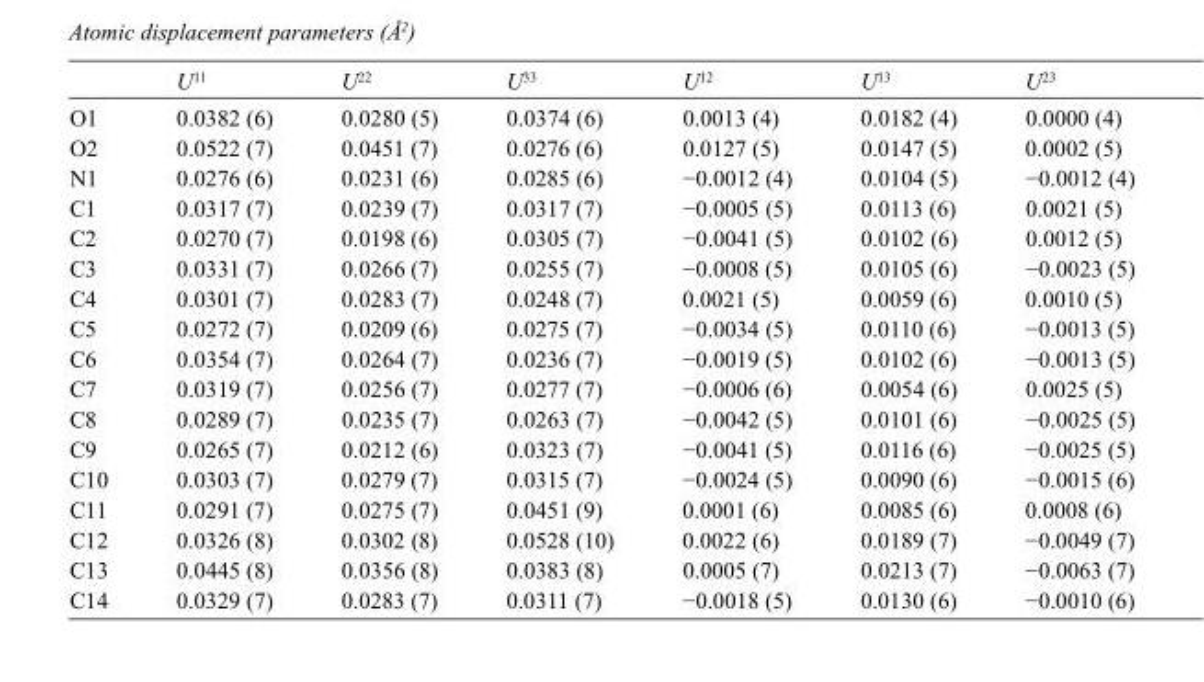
<table><thead><tr><td></td><td>U<sup>11</sup></td><td>U<sup>22</sup></td><td>U<sup>33</sup></td><td>U<sup>12</sup></td><td>U<sup>13</sup></td><td>U<sup>23</sup></td></tr></thead><tbody><tr><td>O1</td><td>0.0382 (6)</td><td>0.0280 (5)</td><td>0.0374 (6)</td><td>0.0013 (4)</td><td>0.0182 (4)</td><td>0.0000 (4)</td></tr><tr><td>O2</td><td>0.0522 (7)</td><td>0.0451 (7)</td><td>0.0276 (6)</td><td>0.0127 (5)</td><td>0.0147 (5)</td><td>0.0002 (5)</td></tr><tr><td>N1</td><td>0.0276 (6)</td><td>0.0231 (6)</td><td>0.0285 (6)</td><td>−0.0012 (4)</td><td>0.0104 (5)</td><td>−0.0012 (4)</td></tr><tr><td>C1</td><td>0.0317 (7)</td><td>0.0239 (7)</td><td>0.0317 (7)</td><td>−0.0005 (5)</td><td>0.0113 (6)</td><td>0.0021 (5)</td></tr><tr><td>C2</td><td>0.0270 (7)</td><td>0.0198 (6)</td><td>0.0305 (7)</td><td>−0.0041 (5)</td><td>0.0102 (6)</td><td>0.0012 (5)</td></tr><tr><td>C3</td><td>0.0331 (7)</td><td>0.0266 (7)</td><td>0.0255 (7)</td><td>−0.0008 (5)</td><td>0.0105 (6)</td><td>−0.0023 (5)</td></tr><tr><td>C4</td><td>0.0301 (7)</td><td>0.0283 (7)</td><td>0.0248 (7)</td><td>0.0021 (5)</td><td>0.0059 (6)</td><td>0.0010 (5)</td></tr><tr><td>C5</td><td>0.0272 (7)</td><td>0.0209 (6)</td><td>0.0275 (7)</td><td>−0.0034 (5)</td><td>0.0110 (6)</td><td>−0.0013 (5)</td></tr><tr><td>C6</td><td>0.0354 (7)</td><td>0.0264 (7)</td><td>0.0236 (7)</td><td>−0.0019 (5)</td><td>0.0102 (6)</td><td>−0.0013 (5)</td></tr><tr><td>C7</td><td>0.0319 (7)</td><td>0.0256 (7)</td><td>0.0277 (7)</td><td>−0.0006 (6)</td><td>0.0054 (6)</td><td>0.0025 (5)</td></tr><tr><td>C8</td><td>0.0289 (7)</td><td>0.0235 (7)</td><td>0.0263 (7)</td><td>−0.0042 (5)</td><td>0.0101 (6)</td><td>−0.0025 (5)</td></tr><tr><td>C9</td><td>0.0265 (7)</td><td>0.0212 (6)</td><td>0.0323 (7)</td><td>−0.0041 (5)</td><td>0.0116 (6)</td><td>−0.0025 (5)</td></tr><tr><td>C10</td><td>0.0303 (7)</td><td>0.0279 (7)</td><td>0.0315 (7)</td><td>−0.0024 (5)</td><td>0.0090 (6)</td><td>−0.0015 (6)</td></tr><tr><td>C11</td><td>0.0291 (7)</td><td>0.0275 (7)</td><td>0.0451 (9)</td><td>0.0001 (6)</td><td>0.0085 (6)</td><td>0.0008 (6)</td></tr><tr><td>C12</td><td>0.0326 (8)</td><td>0.0302 (8)</td><td>0.0528 (10)</td><td>0.0022 (6)</td><td>0.0189 (7)</td><td>−0.0049 (7)</td></tr><tr><td>C13</td><td>0.0445 (8)</td><td>0.0356 (8)</td><td>0.0383 (8)</td><td>0.0005 (7)</td><td>0.0213 (7)</td><td>−0.0063 (7)</td></tr><tr><td>C14</td><td>0.0329 (7)</td><td>0.0283 (7)</td><td>0.0311 (7)</td><td>−0.0018 (5)</td><td>0.0130 (6)</td><td>−0.0010 (6)</td></tr></tbody></table>